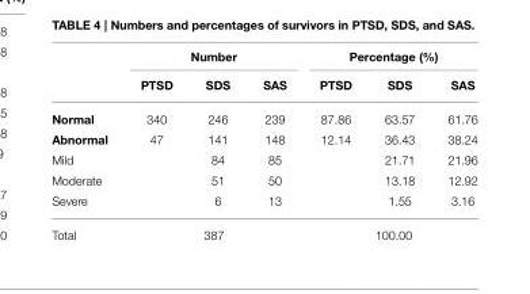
<table><thead><tr><td rowspan="2"></td><td colspan="3">Number</td><td colspan="3">Percentage (%)</td></tr><tr><td>PTSD</td><td>SDS</td><td>SAS</td><td>PTSD</td><td>SDS</td><td>SAS</td></tr></thead><tbody><tr><td>Normal</td><td>340</td><td>246</td><td>239</td><td>87.86</td><td>63.57</td><td>61.76</td></tr><tr><td>Abnormal</td><td>47</td><td>141</td><td>148</td><td>12.14</td><td>36.43</td><td>38.24</td></tr><tr><td>Mild</td><td></td><td>84</td><td>85</td><td></td><td>21.71</td><td>21.96</td></tr><tr><td>Moderate</td><td></td><td>51</td><td>50</td><td></td><td>13.18</td><td>12.92</td></tr><tr><td>Severe</td><td></td><td>6</td><td>13</td><td></td><td>1.55</td><td>3.16</td></tr><tr><td>Total</td><td></td><td>387</td><td></td><td></td><td>100.00</td><td></td></tr></tbody></table>